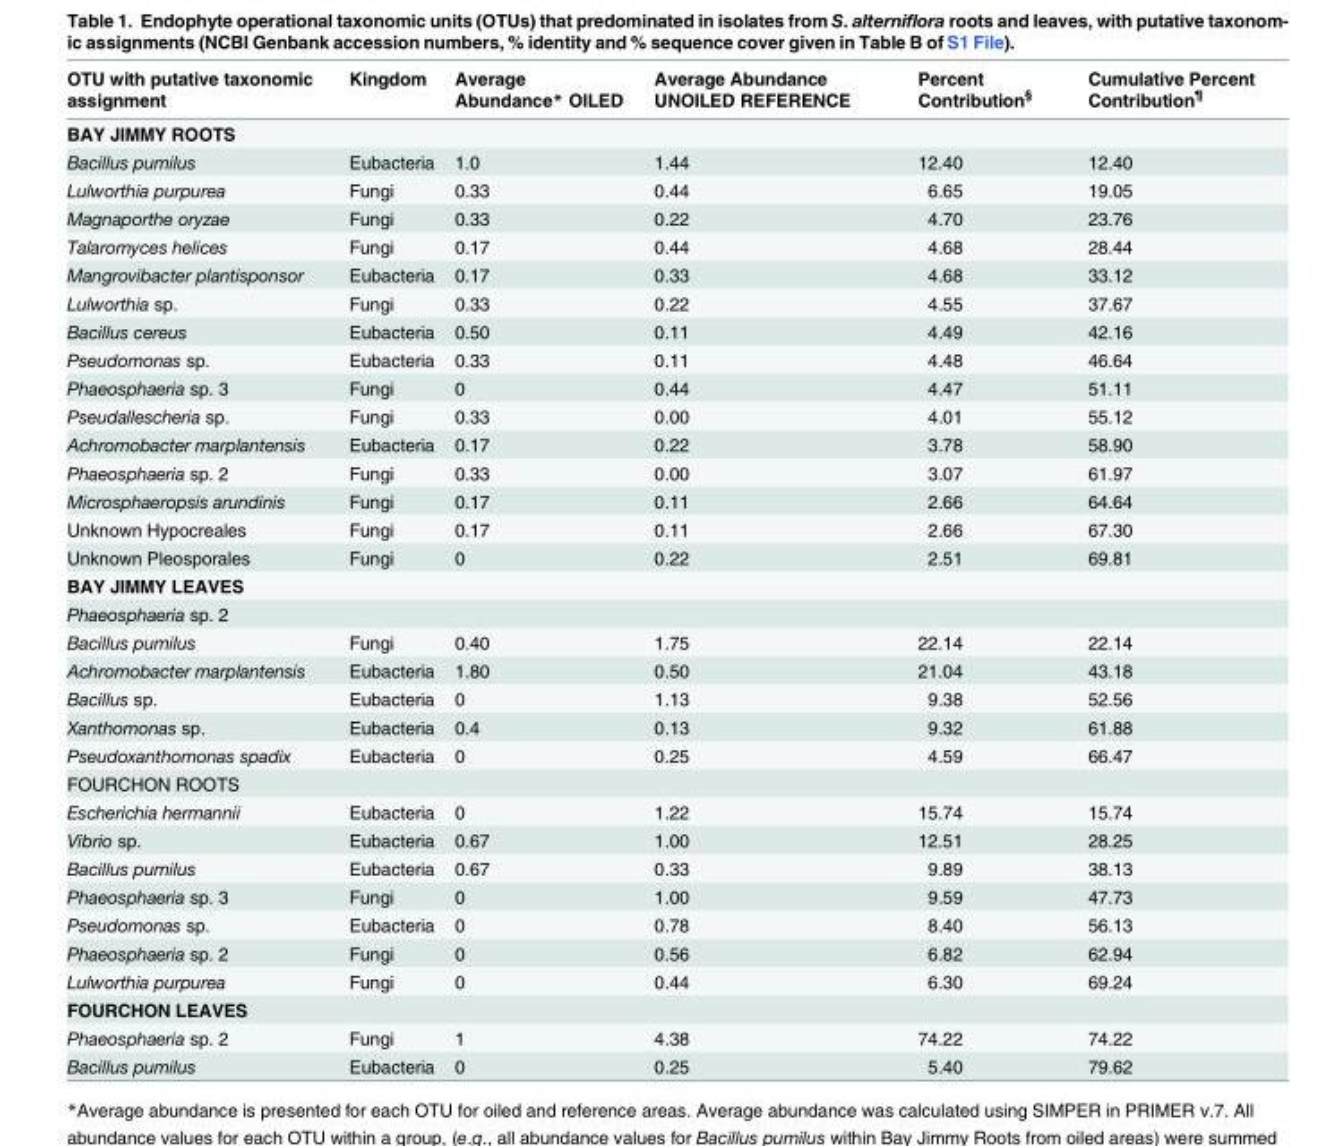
<table><thead><tr><td>OTU with putative taxonomic assignment</td><td>Kingdom</td><td>Average Abundance* OILED</td><td>Average Abundance UNOILED REFERENCE</td><td>Percent Contribution<sup>§</sup></td><td>Cumulative Percent Contribution<sup>¶</sup></td></tr></thead><tbody><tr><td colspan="6">BAY JIMMY ROOTS</td></tr><tr><td>Bacillus pumilus</td><td>Eubacteria</td><td>1.0</td><td>1.44</td><td>12.40</td><td>12.40</td></tr><tr><td>Lulworthia purpurea</td><td>Fungi</td><td>0.33</td><td>0.44</td><td>6.65</td><td>19.05</td></tr><tr><td>Magnaporthe oryzae</td><td>Fungi</td><td>0.33</td><td>0.22</td><td>4.70</td><td>23.76</td></tr><tr><td>Talaromyces helices</td><td>Fungi</td><td>0.17</td><td>0.44</td><td>4.68</td><td>28.44</td></tr><tr><td>Mangrovibacter plantisponsor</td><td>Eubacteria</td><td>0.17</td><td>0.33</td><td>4.68</td><td>33.12</td></tr><tr><td>Lulworthia sp.</td><td>Fungi</td><td>0.33</td><td>0.22</td><td>4.55</td><td>37.67</td></tr><tr><td>Bacillus cereus</td><td>Eubacteria</td><td>0.50</td><td>0.11</td><td>4.49</td><td>42.16</td></tr><tr><td>Pseudomonas sp.</td><td>Eubacteria</td><td>0.33</td><td>0.11</td><td>4.48</td><td>46.64</td></tr><tr><td>Phaeosphaeria sp. 3</td><td>Fungi</td><td>0</td><td>0.44</td><td>4.47</td><td>51.11</td></tr><tr><td>Pseudallescheria sp.</td><td>Fungi</td><td>0.33</td><td>0.00</td><td>4.01</td><td>55.12</td></tr><tr><td>Achromobacter marplantensis</td><td>Eubacteria</td><td>0.17</td><td>0.22</td><td>3.78</td><td>58.90</td></tr><tr><td>Phaeosphaeria sp. 2</td><td>Fungi</td><td>0.33</td><td>0.00</td><td>3.07</td><td>61.97</td></tr><tr><td>Microsphaeropsis arundinis</td><td>Fungi</td><td>0.17</td><td>0.11</td><td>2.66</td><td>64.64</td></tr><tr><td>Unknown Hypocreales</td><td>Fungi</td><td>0.17</td><td>0.11</td><td>2.66</td><td>67.30</td></tr><tr><td>Unknown Pleosporales</td><td>Fungi</td><td>0</td><td>0.22</td><td>2.51</td><td>69.81</td></tr><tr><td colspan="6">BAY JIMMY LEAVES</td></tr><tr><td colspan="6">Phaeosphaeria sp. 2</td></tr><tr><td>Bacillus pumilus</td><td>Fungi</td><td>0.40</td><td>1.75</td><td>22.14</td><td>22.14</td></tr><tr><td>Achromobacter marplantensis</td><td>Eubacteria</td><td>1.80</td><td>0.50</td><td>21.04</td><td>43.18</td></tr><tr><td>Bacillus sp.</td><td>Eubacteria</td><td>0</td><td>1.13</td><td>9.38</td><td>52.56</td></tr><tr><td>Xanthomonas sp.</td><td>Eubacteria</td><td>0.4</td><td>0.13</td><td>9.32</td><td>61.88</td></tr><tr><td>Pseudoxanthomonas spadix</td><td>Eubacteria</td><td>0</td><td>0.25</td><td>4.59</td><td>66.47</td></tr><tr><td colspan="6">FOURCHON ROOTS</td></tr><tr><td>Escherichia hermannii</td><td>Eubacteria</td><td>0</td><td>1.22</td><td>15.74</td><td>15.74</td></tr><tr><td>Vibrio sp.</td><td>Eubacteria</td><td>0.67</td><td>1.00</td><td>12.51</td><td>28.25</td></tr><tr><td>Bacillus pumilus</td><td>Eubacteria</td><td>0.67</td><td>0.33</td><td>9.89</td><td>38.13</td></tr><tr><td>Phaeosphaeria sp. 3</td><td>Fungi</td><td>0</td><td>1.00</td><td>9.59</td><td>47.73</td></tr><tr><td>Pseudomonas sp.</td><td>Eubacteria</td><td>0</td><td>0.78</td><td>8.40</td><td>56.13</td></tr><tr><td>Phaeosphaeria sp. 2</td><td>Fungi</td><td>0</td><td>0.56</td><td>6.82</td><td>62.94</td></tr><tr><td>Lulworthia purpurea</td><td>Fungi</td><td>0</td><td>0.44</td><td>6.30</td><td>69.24</td></tr><tr><td colspan="6">FOURCHON LEAVES</td></tr><tr><td>Phaeosphaeria sp. 2</td><td>Fungi</td><td>1</td><td>4.38</td><td>74.22</td><td>74.22</td></tr><tr><td>Bacillus pumilus</td><td>Eubacteria</td><td>0</td><td>0.25</td><td>5.40</td><td>79.62</td></tr></tbody></table>